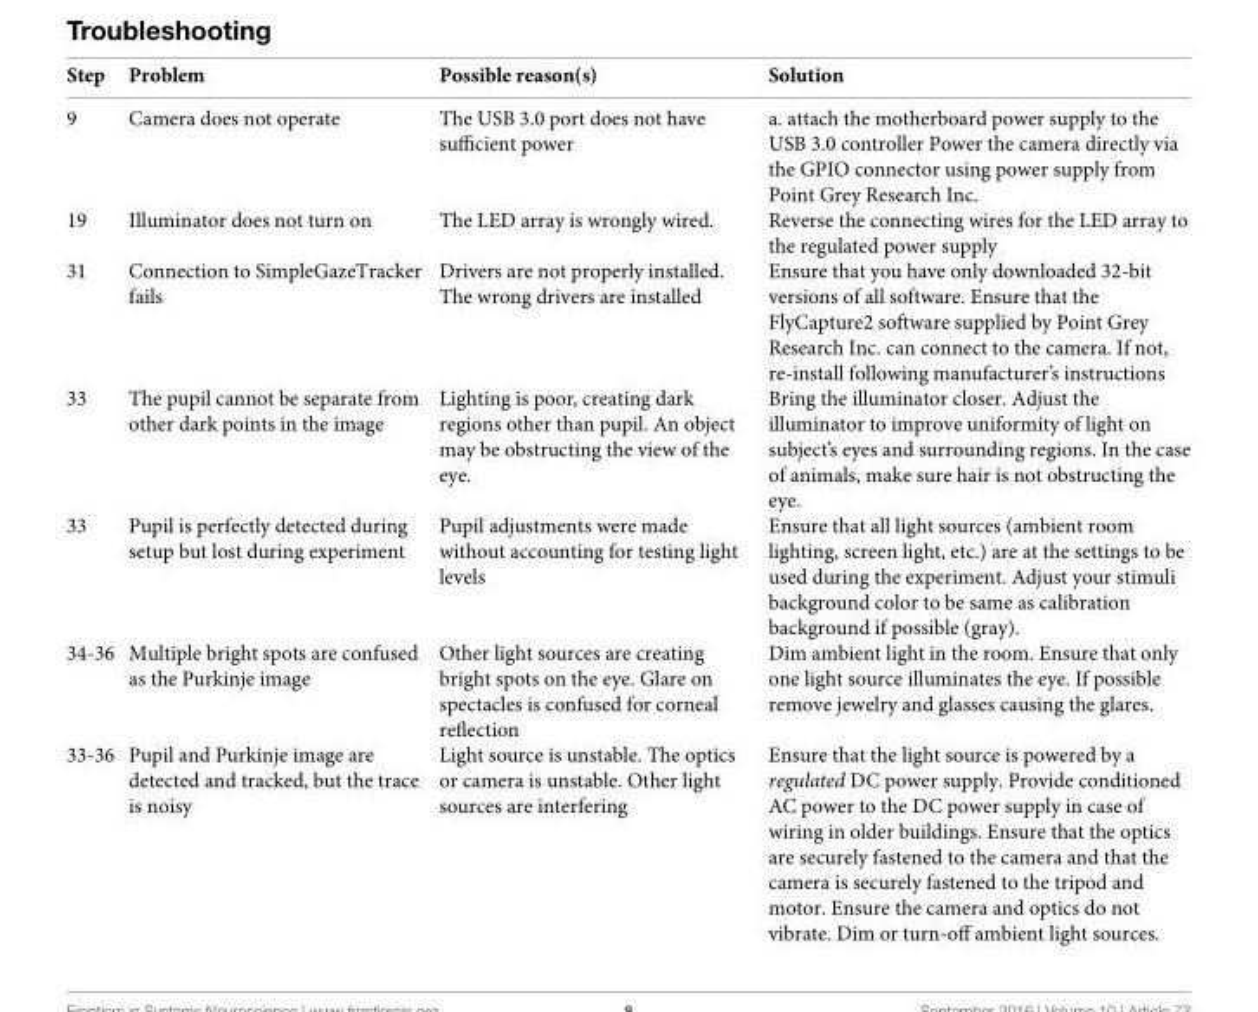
<table><thead><tr><td>Step</td><td>Problem</td><td>Possible reason(s)</td><td>Solution</td></tr></thead><tbody><tr><td>9</td><td>Camera does not operate</td><td>The USB 3.0 port does not have sufficient power</td><td>a. attach the motherboard power supply to the USB 3.0 controller Power the camera directly via the GPIO connector using power supply from Point Grey Research Inc.</td></tr><tr><td>19</td><td>Illuminator does not turn on</td><td>The LED array is wrongly wired.</td><td>Reverse the connecting wires for the LED array to the regulated power supply</td></tr><tr><td>31</td><td>Connection to SimpleGazeTracker fails</td><td>Drivers are not properly installed. The wrong drivers are installed</td><td>Ensure that you have only downloaded 32-bit versions of all software. Ensure that the FlyCapture2 software supplied by Point Grey Research Inc. can connect to the camera. If not, re-install following manufacturer’s instructions</td></tr><tr><td>33</td><td>The pupil cannot be separate from other dark points in the image</td><td>Lighting is poor, creating dark regions other than pupil. An object may be obstructing the view of the eye.</td><td>Bring the illuminator closer. Adjust the illuminator to improve uniformity of light on subject’s eyes and surrounding regions. In the case of animals, make sure hair is not obstructing the eye.</td></tr><tr><td>33</td><td>Pupil is perfectly detected during setup but lost during experiment</td><td>Pupil adjustments were made without accounting for testing light levels</td><td>Ensure that all light sources (ambient room lighting, screen light, etc.) are at the settings to be used during the experiment. Adjust your stimuli background color to be same as calibration background if possible (gray).</td></tr><tr><td>34-36</td><td>Multiple bright spots are confused as the Purkinje image</td><td>Other light sources are creating bright spots on the eye. Glare on spectacles is confused for corneal reflection</td><td>Dim ambient light in the room. Ensure that only one light source illuminates the eye. If possible remove jewelry and glasses causing the glares.</td></tr><tr><td>33-36</td><td>Pupil and Purkinje image are detected and tracked, but the trace is noisy</td><td>Light source is unstable. The optics or camera is unstable. Other light sources are interfering</td><td>Ensure that the light source is powered by a regulated DC power supply. Provide conditioned AC power to the DC power supply in case of wiring in older buildings. Ensure that the optics are securely fastened to the camera and that the camera is securely fastened to the tripod and motor. Ensure the camera and optics do not vibrate. Dim or turn-off ambient light sources.</td></tr></tbody></table>